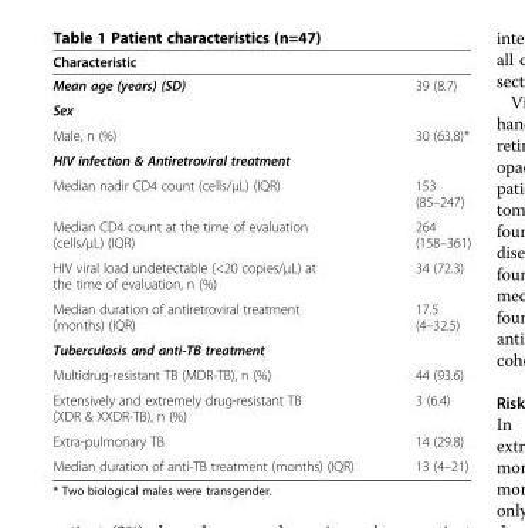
<table><thead><tr><td>Characteristic</td><td></td></tr></thead><tbody><tr><td>Mean age (years) (SD)</td><td>39 (8.7)</td></tr><tr><td colspan="2">Sex</td></tr><tr><td>Male, n (%)</td><td>30 (63.8)*</td></tr><tr><td colspan="2">HIV infection &amp; Antiretroviral treatment</td></tr><tr><td>Median nadir CD4 count (cells/μL) (IQR)</td><td>153 (85–247)</td></tr><tr><td>Median CD4 count at the time of evaluation (cells/μL) (IQR)</td><td>264 (158–361)</td></tr><tr><td>HIV viral load undetectable (&lt;20 copies/μL) at the time of evaluation, n (%)</td><td>34 (72.3)</td></tr><tr><td>Median duration of antiretroviral treatment (months) (IQR)</td><td>17.5 (4–32.5)</td></tr><tr><td colspan="2">Tuberculosis and anti-TB treatment</td></tr><tr><td>Multidrug-resistant TB (MDR-TB), n (%)</td><td>44 (93.6)</td></tr><tr><td>Extensively and extremely drug-resistant TB (XDR &amp; XXDR-TB), n (%)</td><td>3 (6.4)</td></tr><tr><td>Extra-pulmonary TB</td><td>14 (29.8)</td></tr><tr><td>Median duration of anti-TB treatment (months) (IQR)</td><td>13 (4–21)</td></tr></tbody></table>